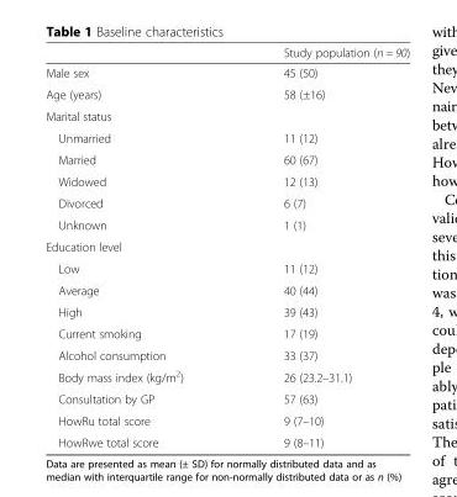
<table><thead><tr><td></td><td>Study population (n = 90)</td></tr></thead><tbody><tr><td>Male sex</td><td>45 (50)</td></tr><tr><td>Age (years)</td><td>58 (±16)</td></tr><tr><td colspan="2">Marital status</td></tr><tr><td>Unmarried</td><td>11 (12)</td></tr><tr><td>Married</td><td>60 (67)</td></tr><tr><td>Widowed</td><td>12 (13)</td></tr><tr><td>Divorced</td><td>6 (7)</td></tr><tr><td>Unknown</td><td>1 (1)</td></tr><tr><td colspan="2">Education level</td></tr><tr><td>Low</td><td>11 (12)</td></tr><tr><td>Average</td><td>40 (44)</td></tr><tr><td>High</td><td>39 (43)</td></tr><tr><td>Current smoking</td><td>17 (19)</td></tr><tr><td>Alcohol consumption</td><td>33 (37)</td></tr><tr><td>Body mass index (kg/m<sup>2</sup>)</td><td>26 (23.2–31.1)</td></tr><tr><td>Consultation by GP</td><td>57 (63)</td></tr><tr><td>HowRu total score</td><td>9 (7–10)</td></tr><tr><td>HowRwe total score</td><td>9 (8–11)</td></tr></tbody></table>